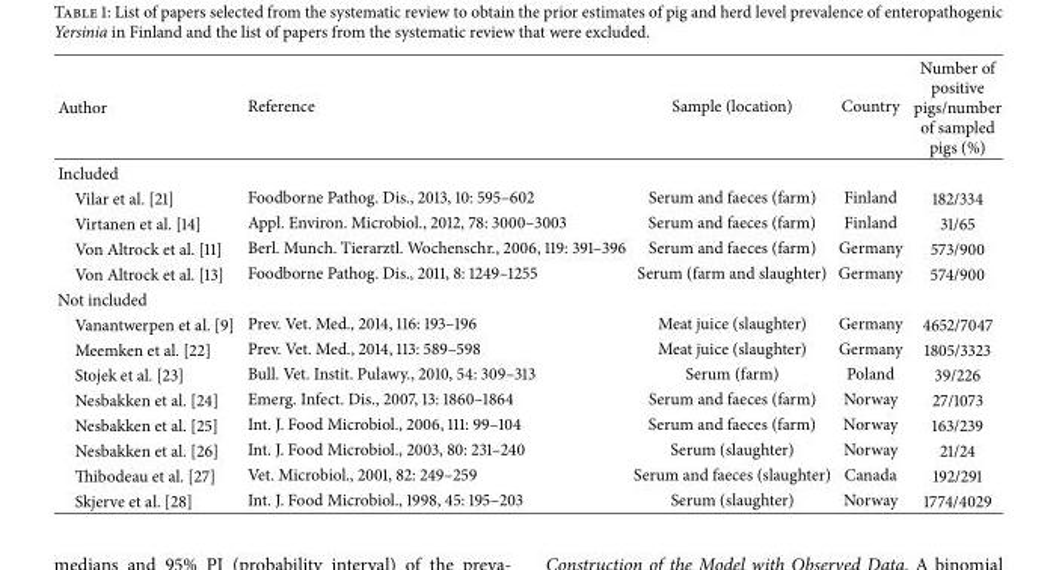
<table><thead><tr><td>Author</td><td>Reference</td><td>Sample (location)</td><td>Country</td><td>Number of positive pigs/number of sampled pigs (%)</td></tr></thead><tbody><tr><td colspan="5">Included</td></tr><tr><td>Vilar et al. [21]</td><td>Foodborne Pathog. Dis., 2013, 10: 595–602</td><td>Serum and faeces (farm)</td><td>Finland</td><td>182/334</td></tr><tr><td>Virtanen et al. [14]</td><td>Appl. Environ. Microbiol., 2012, 78: 3000–3003</td><td>Serum and faeces (farm)</td><td>Finland</td><td>31/65</td></tr><tr><td>Von Altrock et al. [11]</td><td>Berl. Munch. Tierarztl. Wochenschr., 2006, 119: 391–396</td><td>Serum and faeces (farm)</td><td>Germany</td><td>573/900</td></tr><tr><td>Von Altrock et al. [13]</td><td>Foodborne Pathog. Dis., 2011, 8: 1249–1255</td><td>Serum (farm and slaughter)</td><td>Germany</td><td>574/900</td></tr><tr><td colspan="5">Not included</td></tr><tr><td>Vanantwerpen et al. [9]</td><td>Prev. Vet. Med., 2014, 116: 193–196</td><td>Meat juice (slaughter)</td><td>Germany</td><td>4652/7047</td></tr><tr><td>Meemken et al. [22]</td><td>Prev. Vet. Med., 2014, 113: 589–598</td><td>Meat juice (slaughter)</td><td>Germany</td><td>1805/3323</td></tr><tr><td>Stojek et al. [23]</td><td>Bull. Vet. Instit. Pulawy., 2010, 54: 309–313</td><td>Serum (farm)</td><td>Poland</td><td>39/226</td></tr><tr><td>Nesbakken et al. [24]</td><td>Emerg. Infect. Dis., 2007, 13: 1860–1864</td><td>Serum and faeces (farm)</td><td>Norway</td><td>27/1073</td></tr><tr><td>Nesbakken et al. [25]</td><td>Int. J. Food Microbiol., 2006, 111: 99–104</td><td>Serum and faeces (farm)</td><td>Norway</td><td>163/239</td></tr><tr><td>Nesbakken et al. [26]</td><td>Int. J. Food Microbiol., 2003, 80: 231–240</td><td>Serum (slaughter)</td><td>Norway</td><td>21/24</td></tr><tr><td>Thibodeau et al. [27]</td><td>Vet. Microbiol., 2001, 82: 249–259</td><td>Serum and faeces (slaughter)</td><td>Canada</td><td>192/291</td></tr><tr><td>Skjerve et al. [28]</td><td>Int. J. Food Microbiol., 1998, 45: 195–203</td><td>Serum (slaughter)</td><td>Norway</td><td>1774/4029</td></tr></tbody></table>